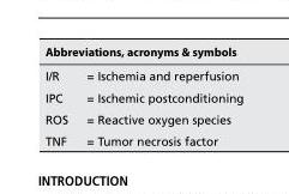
<table><thead><tr><td colspan="2">Abbreviations, acronyms &amp; symbols</td></tr><tr><td>I/R</td><td>= Ischemia and reperfusion</td></tr></thead><tbody><tr><td>IPC</td><td>= Ischemic postconditioning</td></tr><tr><td>ROS</td><td>= Reactive oxygen species</td></tr><tr><td>TNF</td><td>= Tumor necrosis factor</td></tr></tbody></table>